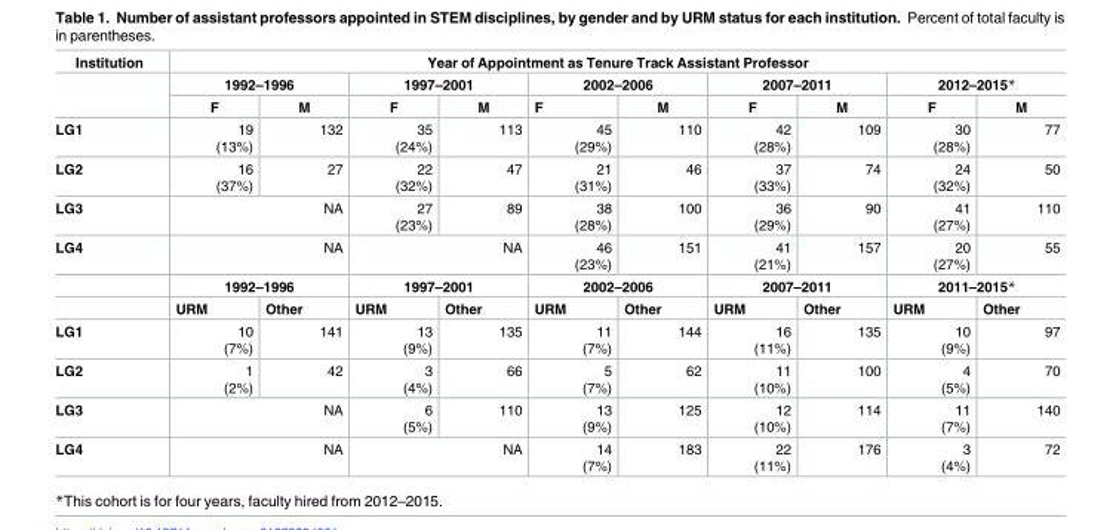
<table><thead><tr><td rowspan="3">Institution</td><td colspan="10">Year of Appointment as Tenure Track Assistant Professor</td></tr><tr><td colspan="2">1992–1996</td><td colspan="2">1997–2001</td><td colspan="2">2002–2006</td><td colspan="2">2007–2011</td><td colspan="2">2012–2015*</td></tr><tr><td>F</td><td>M</td><td>F</td><td>M</td><td>F</td><td>M</td><td>F</td><td>M</td><td>F</td><td>M</td></tr></thead><tbody><tr><td>LG1</td><td>19 (13%)</td><td>132</td><td>35 (24%)</td><td>113</td><td>45 (29%)</td><td>110</td><td>42 (28%)</td><td>109</td><td>30 (28%)</td><td>77</td></tr><tr><td>LG2</td><td>16 (37%)</td><td>27</td><td>22 (32%)</td><td>47</td><td>21 (31%)</td><td>46</td><td>37 (33%)</td><td>74</td><td>24 (32%)</td><td>50</td></tr><tr><td>LG3</td><td colspan="2">NA</td><td>27 (23%)</td><td>89</td><td>38 (28%)</td><td>100</td><td>36 (29%)</td><td>90</td><td>41 (27%)</td><td>110</td></tr><tr><td rowspan="3">LG4</td><td colspan="2">NA</td><td colspan="2">NA</td><td>46 (23%)</td><td>151</td><td>41 (21%)</td><td>157</td><td>20 (27%)</td><td>55</td></tr><tr><td colspan="2">1992–1996</td><td colspan="2">1997–2001</td><td colspan="2">2002–2006</td><td colspan="2">2007–2011</td><td colspan="2">2011–2015*</td></tr><tr><td>URM</td><td>Other</td><td>URM</td><td>Other</td><td>URM</td><td>Other</td><td>URM</td><td>Other</td><td>URM</td><td>Other</td></tr><tr><td>LG1</td><td>10 (7%)</td><td>141</td><td>13 (9%)</td><td>135</td><td>11 (7%)</td><td>144</td><td>16 (11%)</td><td>135</td><td>10 (9%)</td><td>97</td></tr><tr><td>LG2</td><td>1 (2%)</td><td>42</td><td>3 (4%)</td><td>66</td><td>5 (7%)</td><td>62</td><td>11 (10%)</td><td>100</td><td>4 (5%)</td><td>70</td></tr><tr><td>LG3</td><td colspan="2">NA</td><td>6 (5%)</td><td>110</td><td>13 (9%)</td><td>125</td><td>12 (10%)</td><td>114</td><td>11 (7%)</td><td>140</td></tr><tr><td>LG4</td><td colspan="2">NA</td><td colspan="2">NA</td><td>14 (7%)</td><td>183</td><td>22 (11%)</td><td>176</td><td>3 (4%)</td><td>72</td></tr></tbody></table>